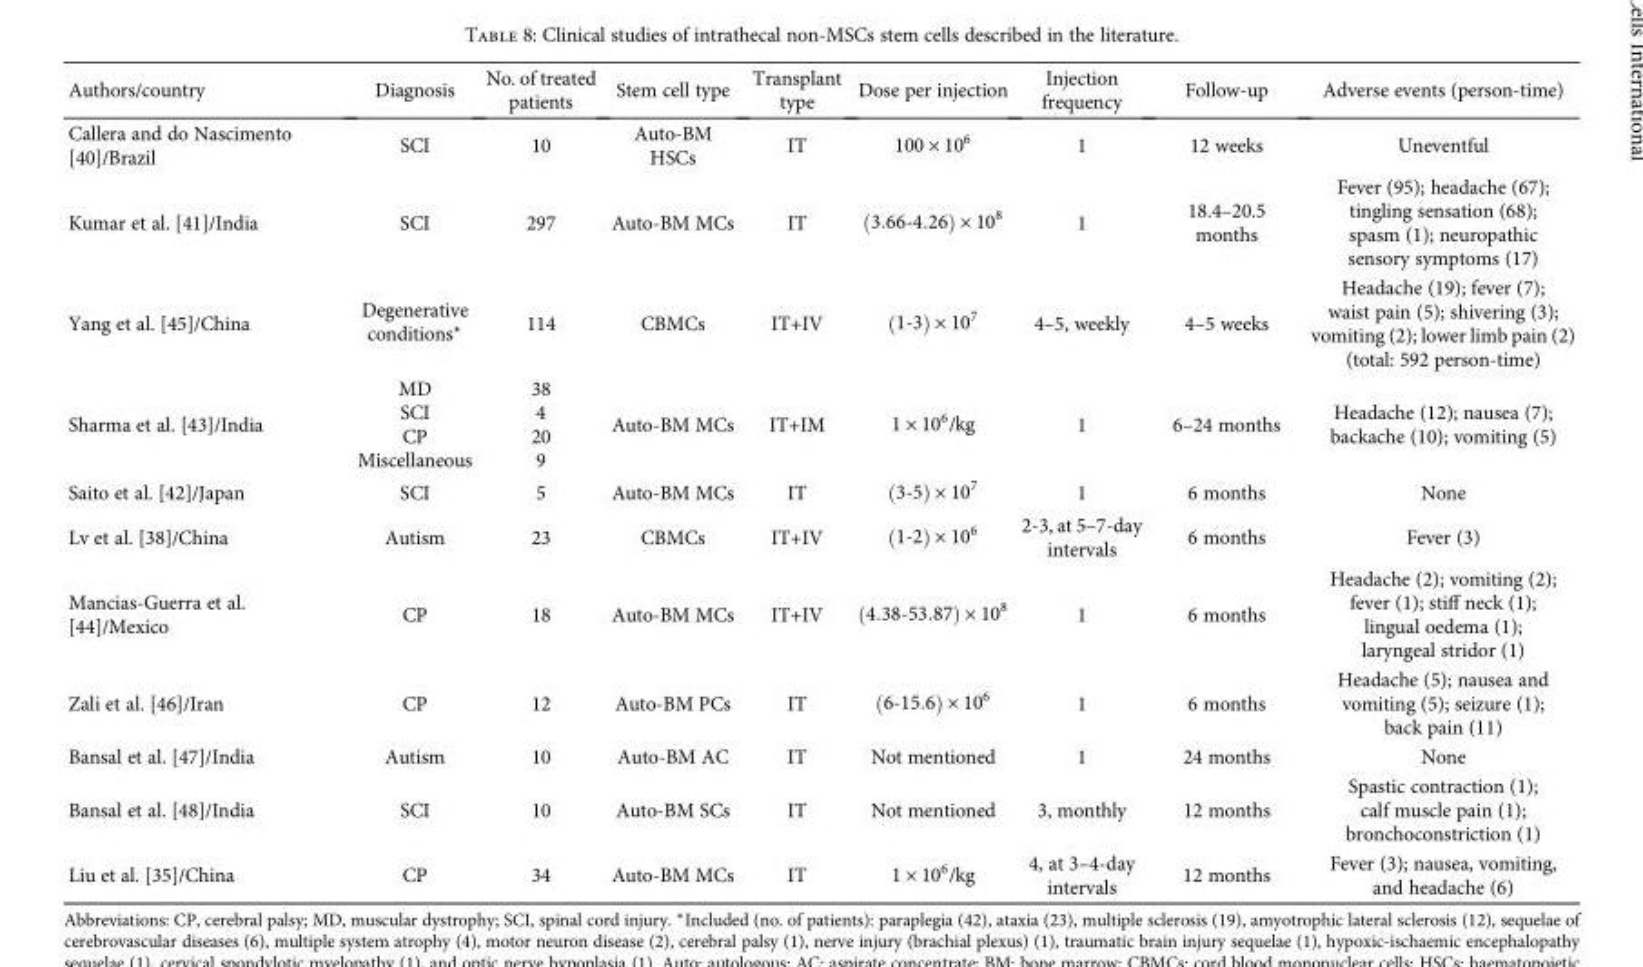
<table><thead><tr><td>Authors/country</td><td>Diagnosis</td><td>No. of treated patients</td><td>Stem cell type</td><td>Transplant type</td><td>Dose per injection</td><td>Injection frequency</td><td>Follow-up</td><td>Adverse events (person-time)</td></tr></thead><tbody><tr><td>Callera and do Nascimento [40]/Brazil</td><td>SCI</td><td>10</td><td>Auto-BM HSCs</td><td>IT</td><td>100 × 10<sup>6</sup></td><td>1</td><td>12 weeks</td><td>Uneventful</td></tr><tr><td>Kumar et al. [41]/India</td><td>SCI</td><td>297</td><td>Auto-BM MCs</td><td>IT</td><td>3 66‐4 26 × 108</td><td>1</td><td>18.4–20.5 months</td><td>Fever (95); headache (67); tingling sensation (68); spasm (1); neuropathic sensory symptoms (17)</td></tr><tr><td>Yang et al. [45]/China</td><td>Degenerative conditions∗</td><td>114</td><td>CBMCs</td><td>IT+IV</td><td>1‐3 × 107</td><td>4–5, weekly</td><td>4–5 weeks</td><td>Headache (19); fever (7); waist pain (5); shivering (3); vomiting (2); lower limb pain (2) (total: 592 person-time)</td></tr><tr><td>Sharma et al. [43]/India</td><td>MD SCI CP Miscellaneous</td><td>38 4 20 9</td><td>Auto-BM MCs</td><td>IT+IM</td><td>1 × 10<sup>6</sup>/kg</td><td>1</td><td>6–24 months</td><td>Headache (12); nausea (7); backache (10); vomiting (5)</td></tr><tr><td>Saito et al. [42]/Japan</td><td>SCI</td><td>5</td><td>Auto-BM MCs</td><td>IT</td><td>3‐5 × 107</td><td>1</td><td>6 months</td><td>None</td></tr><tr><td>Lv et al. [38]/China</td><td>Autism</td><td>23</td><td>CBMCs</td><td>IT+IV</td><td>1‐2 × 106</td><td>2-3, at 5–7-day intervals</td><td>6 months</td><td>Fever (3)</td></tr><tr><td>Mancias-Guerra et al. [44]/Mexico</td><td>CP</td><td>18</td><td>Auto-BM MCs</td><td>IT+IV</td><td>4 38‐53 87 × 108</td><td>1</td><td>6 months</td><td>Headache (2); vomiting (2); fever (1); stiff neck (1); lingual oedema (1); laryngeal stridor (1)</td></tr><tr><td>Zali et al. [46]/Iran</td><td>CP</td><td>12</td><td>Auto-BM PCs</td><td>IT</td><td>6‐15 6 × 106</td><td>1</td><td>6 months</td><td>Headache (5); nausea and vomiting (5); seizure (1); back pain (11)</td></tr><tr><td>Bansal et al. [47]/India</td><td>Autism</td><td>10</td><td>Auto-BM AC</td><td>IT</td><td>Not mentioned</td><td>1</td><td>24 months</td><td>None</td></tr><tr><td>Bansal et al. [48]/India</td><td>SCI</td><td>10</td><td>Auto-BM SCs</td><td>IT</td><td>Not mentioned</td><td>3, monthly</td><td>12 months</td><td>Spastic contraction (1); calf muscle pain (1); bronchoconstriction (1)</td></tr><tr><td>Liu et al. [35]/China</td><td>CP</td><td>34</td><td>Auto-BM MCs</td><td>IT</td><td>1 × 10<sup>6</sup>/kg</td><td>4, at 3–4-day intervals</td><td>12 months</td><td>Fever (3); nausea, vomiting, and headache (6)</td></tr></tbody></table>